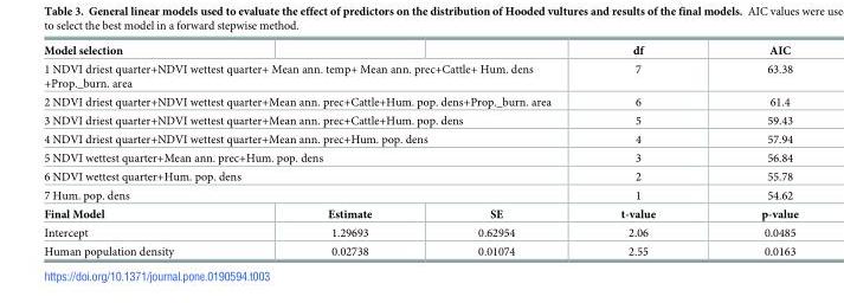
<table><thead><tr><td>Model selection</td><td></td><td></td><td>df</td><td>AIC</td></tr></thead><tbody><tr><td colspan="3">1 NDVI driest quarter+NDVI wettest quarter+ Mean ann. temp+ Mean ann. prec+Cattle+ Hum. dens +Prop._burn. area</td><td>7</td><td>63.38</td></tr><tr><td colspan="3">2 NDVI driest quarter+NDVI wettest quarter+Mean ann. prec+Cattle+Hum. pop. dens+Prop._burn. area</td><td>6</td><td>61.4</td></tr><tr><td colspan="3">3 NDVI driest quarter+NDVI wettest quarter+Mean ann. prec+Cattle+Hum. pop. dens</td><td>5</td><td>59.43</td></tr><tr><td colspan="3">4 NDVI driest quarter+NDVI wettest quarter+Mean ann. prec+Hum. pop. dens</td><td>4</td><td>57.94</td></tr><tr><td colspan="3">5 NDVI wettest quarter+Mean ann. prec+Hum. pop. dens</td><td>3</td><td>56.84</td></tr><tr><td colspan="3">6 NDVI wettest quarter+Hum. pop. dens</td><td>2</td><td>55.78</td></tr><tr><td colspan="3">7 Hum. pop. dens</td><td>1</td><td>54.62</td></tr><tr><td>Final Model</td><td>Estimate</td><td>SE</td><td>t-value</td><td>p-value</td></tr><tr><td>Intercept</td><td>1.29693</td><td>0.62954</td><td>2.06</td><td>0.0485</td></tr><tr><td>Human population density</td><td>0.02738</td><td>0.01074</td><td>2.55</td><td>0.0163</td></tr></tbody></table>